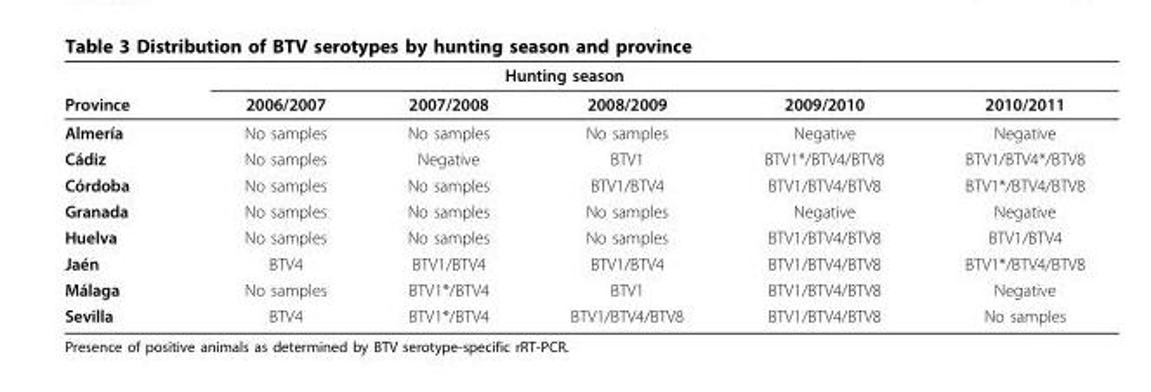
<table><thead><tr><td rowspan="2">Province</td><td colspan="4">Hunting season</td><td rowspan="2">2010/2011</td></tr><tr><td>2006/2007</td><td>2007/2008</td><td>2008/2009</td><td>2009/2010</td></tr></thead><tbody><tr><td>Almería</td><td>No samples</td><td>No samples</td><td>No samples</td><td>Negative</td><td>Negative</td></tr><tr><td>Cádiz</td><td>No samples</td><td>Negative</td><td>BTV1</td><td>BTV1*/BTV4/BTV8</td><td>BTV1/BTV4*/BTV8</td></tr><tr><td>Córdoba</td><td>No samples</td><td>No samples</td><td>BTV1/BTV4</td><td>BTV1/BTV4/BTV8</td><td>BTV1*/BTV4/BTV8</td></tr><tr><td>Granada</td><td>No samples</td><td>No samples</td><td>No samples</td><td>Negative</td><td>Negative</td></tr><tr><td>Huelva</td><td>No samples</td><td>No samples</td><td>No samples</td><td>BTV1/BTV4/BTV8</td><td>BTV1/BTV4</td></tr><tr><td>Jaén</td><td>BTV4</td><td>BTV1/BTV4</td><td>BTV1/BTV4</td><td>BTV1/BTV4/BTV8</td><td>BTV1*/BTV4/BTV8</td></tr><tr><td>Málaga</td><td>No samples</td><td>BTV1*/BTV4</td><td>BTV1</td><td>BTV1/BTV4/BTV8</td><td>Negative</td></tr><tr><td>Sevilla</td><td>BTV4</td><td>BTV1*/BTV4</td><td>BTV1/BTV4/BTV8</td><td>BTV1/BTV4/BTV8</td><td>No samples</td></tr></tbody></table>